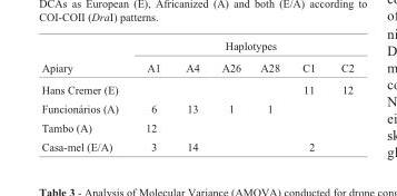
<table><thead><tr><td rowspan="2">Apiary</td><td colspan="6">Haplotypes</td></tr><tr><td>A1</td><td>A4</td><td>A26</td><td>A28</td><td>C1</td><td>C2</td></tr></thead><tbody><tr><td>Hans Cremer (E)</td><td></td><td></td><td></td><td></td><td>11</td><td>12</td></tr><tr><td>Funcionários (A)</td><td>6</td><td>13</td><td>1</td><td>1</td><td></td><td></td></tr><tr><td>Tambo (A)</td><td>12</td><td></td><td></td><td></td><td></td><td></td></tr><tr><td>Casa-mel (E/A)</td><td>3</td><td>14</td><td></td><td></td><td>2</td><td></td></tr></tbody></table>